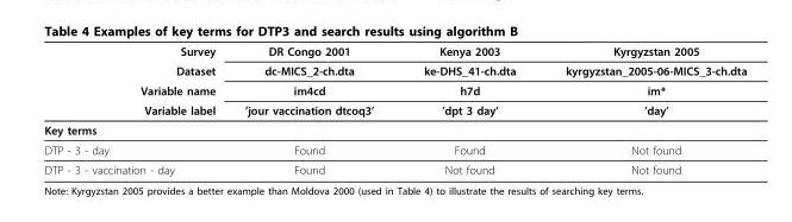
<table><thead><tr><td rowspan="4">Survey Dataset Variable name Variable label</td><td rowspan="4">DR Congo 2001 dc-MICS_2-ch.dta im4cd ’jour vaccination dtcoq3’</td><td rowspan="4">Kenya 2003 ke-DHS_41-ch.dta h7d ’dpt 3 day’</td><td rowspan="4">Kyrgyzstan 2005 kyrgyzstan_2005-06-MICS_3-ch.dta im* ’day’</td></tr><tr></tr><tr></tr><tr></tr></thead><tbody><tr><td colspan="4">Key terms</td></tr><tr><td>DTP - 3 - day</td><td>Found</td><td>Found</td><td>Not found</td></tr><tr><td>DTP - 3 - vaccination - day</td><td>Found</td><td>Not found</td><td>Not found</td></tr></tbody></table>